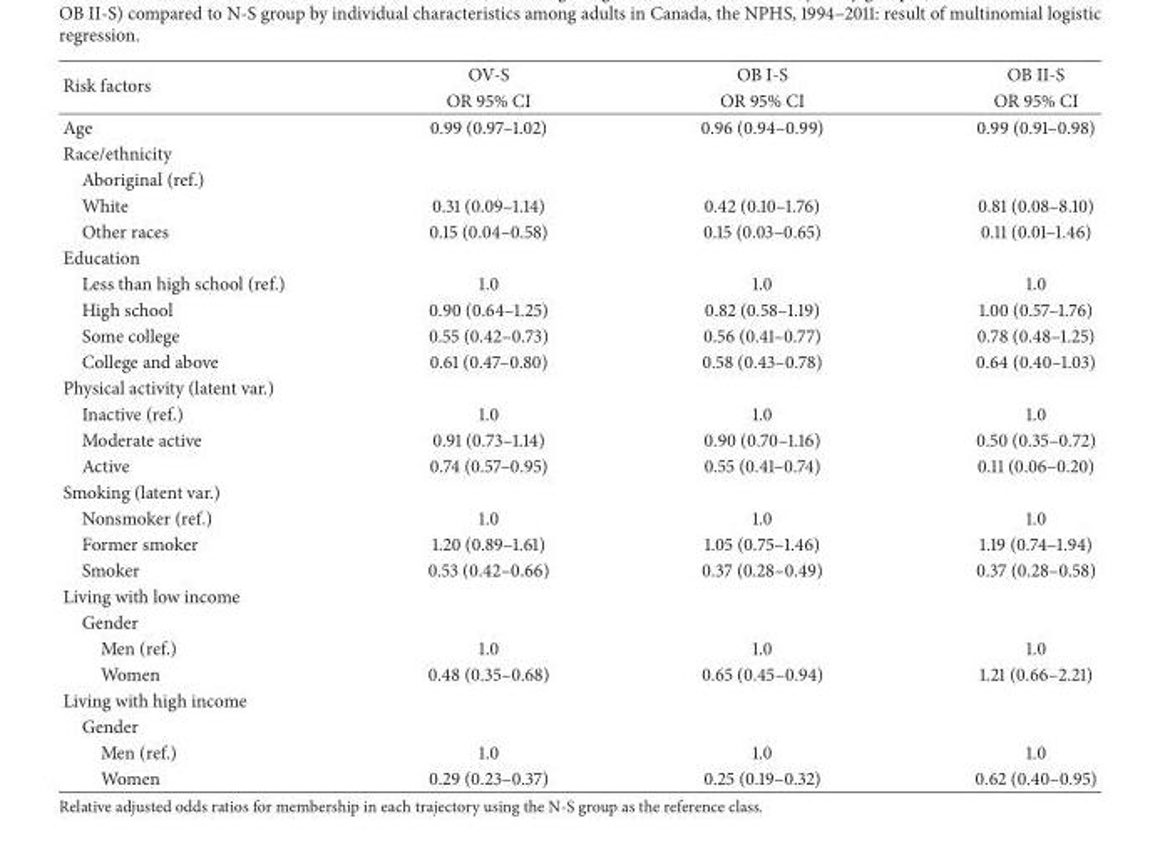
<table><thead><tr><td rowspan="2">Risk factors</td><td rowspan="2">OV-S OR 95% CI</td><td rowspan="2">OB I-S OR 95% CI</td><td rowspan="2">OB II-S OR 95% CI</td></tr><tr></tr></thead><tbody><tr><td>Age</td><td>0.99 (0.97–1.02)</td><td>0.96 (0.94–0.99)</td><td>0.99 (0.91–0.98)</td></tr><tr><td colspan="4">Race/ethnicity</td></tr><tr><td colspan="4">Aboriginal (ref.)</td></tr><tr><td>White</td><td>0.31 (0.09–1.14)</td><td>0.42 (0.10–1.76)</td><td>0.81 (0.08–8.10)</td></tr><tr><td>Other races</td><td>0.15 (0.04–0.58)</td><td>0.15 (0.03–0.65)</td><td>0.11 (0.01–1.46)</td></tr><tr><td colspan="4">Education</td></tr><tr><td>Less than high school (ref.)</td><td>1.0</td><td>1.0</td><td>1.0</td></tr><tr><td>High school</td><td>0.90 (0.64–1.25)</td><td>0.82 (0.58–1.19)</td><td>1.00 (0.57–1.76)</td></tr><tr><td>Some college</td><td>0.55 (0.42–0.73)</td><td>0.56 (0.41–0.77)</td><td>0.78 (0.48–1.25)</td></tr><tr><td>College and above</td><td>0.61 (0.47–0.80)</td><td>0.58 (0.43–0.78)</td><td>0.64 (0.40–1.03)</td></tr><tr><td colspan="4">Physical activity (latent var.)</td></tr><tr><td>Inactive (ref.)</td><td>1.0</td><td>1.0</td><td>1.0</td></tr><tr><td>Moderate active</td><td>0.91 (0.73–1.14)</td><td>0.90 (0.70–1.16)</td><td>0.50 (0.35–0.72)</td></tr><tr><td>Active</td><td>0.74 (0.57–0.95)</td><td>0.55 (0.41–0.74)</td><td>0.11 (0.06–0.20)</td></tr><tr><td colspan="4">Smoking (latent var.)</td></tr><tr><td>Nonsmoker (ref.)</td><td>1.0</td><td>1.0</td><td>1.0</td></tr><tr><td>Former smoker</td><td>1.20 (0.89–1.61)</td><td>1.05 (0.75–1.46)</td><td>1.19 (0.74–1.94)</td></tr><tr><td>Smoker</td><td>0.53 (0.42–0.66)</td><td>0.37 (0.28–0.49)</td><td>0.37 (0.28–0.58)</td></tr><tr><td colspan="4">Living with low income</td></tr><tr><td colspan="4">Gender</td></tr><tr><td>Men (ref.)</td><td>1.0</td><td>1.0</td><td>1.0</td></tr><tr><td>Women</td><td>0.48 (0.35–0.68)</td><td>0.65 (0.45–0.94)</td><td>1.21 (0.66–2.21)</td></tr><tr><td colspan="4">Living with high income</td></tr><tr><td colspan="4">Gender</td></tr><tr><td>Men (ref.)</td><td>1.0</td><td>1.0</td><td>1.0</td></tr><tr><td>Women</td><td>0.29 (0.23–0.37)</td><td>0.25 (0.19–0.32)</td><td>0.62 (0.40–0.95)</td></tr></tbody></table>